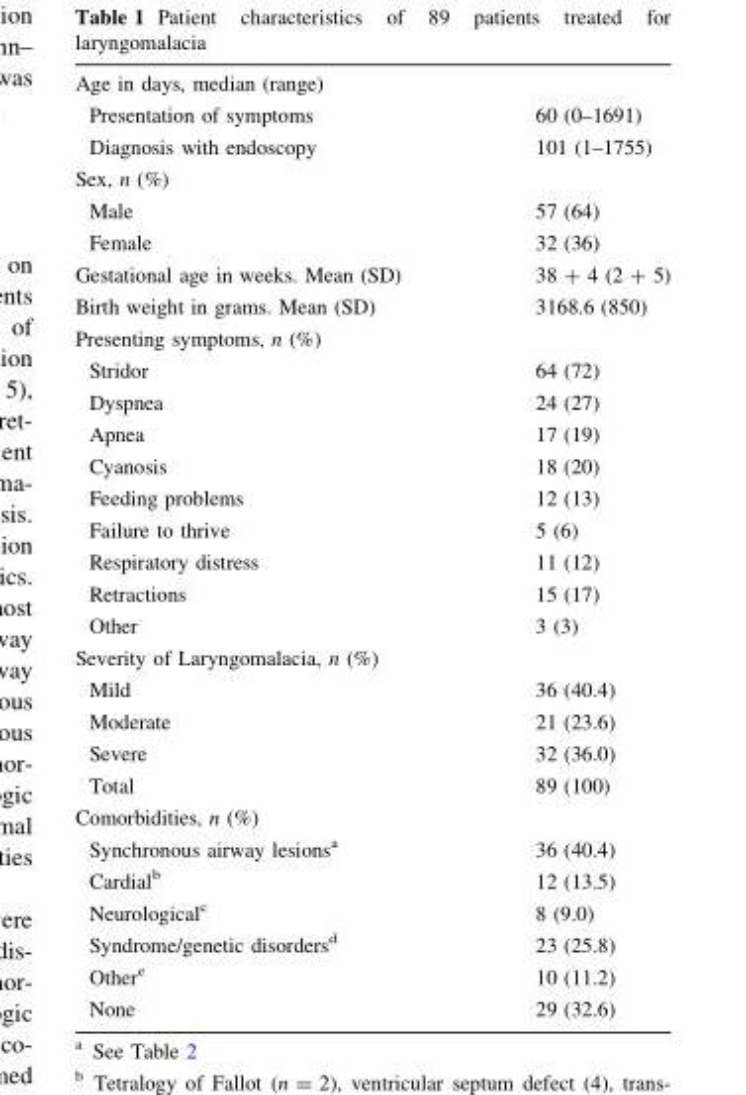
<table><tbody><tr><td colspan="2">Age in days, median (range)</td></tr><tr><td>Presentation of symptoms</td><td>60 (0–1691)</td></tr><tr><td>Diagnosis with endoscopy</td><td>101 (1–1755)</td></tr><tr><td colspan="2">Sex, n (%)</td></tr><tr><td>Male</td><td>57 (64)</td></tr><tr><td>Female</td><td>32 (36)</td></tr><tr><td>Gestational age in weeks. Mean (SD)</td><td>38 + 4 (2 + 5)</td></tr><tr><td>Birth weight in grams. Mean (SD)</td><td>3168.6 (850)</td></tr><tr><td colspan="2">Presenting symptoms, n (%)</td></tr><tr><td>Stridor</td><td>64 (72)</td></tr><tr><td>Dyspnea</td><td>24 (27)</td></tr><tr><td>Apnea</td><td>17 (19)</td></tr><tr><td>Cyanosis</td><td>18 (20)</td></tr><tr><td>Feeding problems</td><td>12 (13)</td></tr><tr><td>Failure to thrive</td><td>5 (6)</td></tr><tr><td>Respiratory distress</td><td>11 (12)</td></tr><tr><td>Retractions</td><td>15 (17)</td></tr><tr><td>Other</td><td>3 (3)</td></tr><tr><td colspan="2">Severity of Laryngomalacia, n (%)</td></tr><tr><td>Mild</td><td>36 (40.4)</td></tr><tr><td>Moderate</td><td>21 (23.6)</td></tr><tr><td>Severe</td><td>32 (36.0)</td></tr><tr><td>Total</td><td>89 (100)</td></tr><tr><td colspan="2">Comorbidities, n (%)</td></tr><tr><td>Synchronous airway lesions<sup>a</sup></td><td>36 (40.4)</td></tr><tr><td>Cardial<sup>b</sup></td><td>12 (13.5)</td></tr><tr><td>Neurological<sup>c</sup></td><td>8 (9.0)</td></tr><tr><td>Syndrome/genetic disorders<sup>d</sup></td><td>23 (25.8)</td></tr><tr><td>Other<sup>e</sup></td><td>10 (11.2)</td></tr><tr><td>None</td><td>29 (32.6)</td></tr></tbody></table>